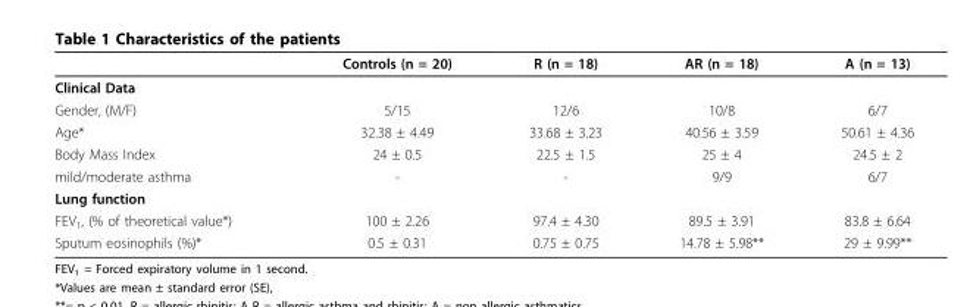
<table><thead><tr><td></td><td>Controls (n = 20)</td><td>R (n = 18)</td><td>AR (n = 18)</td><td>A (n = 13)</td></tr></thead><tbody><tr><td colspan="5">Clinical Data</td></tr><tr><td>Gender, (M/F)</td><td>5/15</td><td>12/6</td><td>10/8</td><td>6/7</td></tr><tr><td>Age*</td><td>32.38 ± 4.49</td><td>33.68 ± 3.23</td><td>40.56 ± 3.59</td><td>50.61 ± 4.36</td></tr><tr><td>Body Mass Index</td><td>24 ± 0.5</td><td>22.5 ± 1.5</td><td>25 ± 4</td><td>24.5 ± 2</td></tr><tr><td>mild/moderate asthma</td><td>-</td><td>-</td><td>9/9</td><td>6/7</td></tr><tr><td colspan="5">Lung function</td></tr><tr><td>FEV<sub>1</sub>, (% of theoretical value*)</td><td>100 ± 2.26</td><td>97.4 ± 4.30</td><td>89.5 ± 3.91</td><td>83.8 ± 6.64</td></tr><tr><td>Sputum eosinophils (%)*</td><td>0.5 ± 0.31</td><td>0.75 ± 0.75</td><td>14.78 ± 5.98**</td><td>29 ± 9.99**</td></tr></tbody></table>